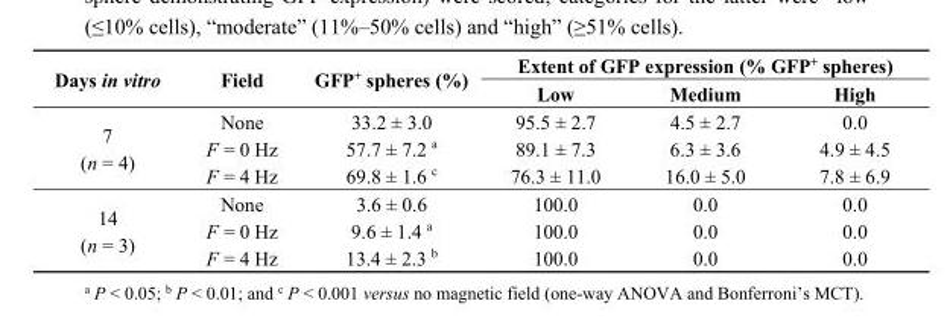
<table><thead><tr><td rowspan="2">Days in vitro</td><td rowspan="2">Field</td><td rowspan="2">GFP<sup>+</sup> spheres (%)</td><td colspan="3">Extent of GFP expression (% GFP<sup>+</sup> spheres)</td></tr><tr><td>Low</td><td>Medium</td><td>High</td></tr></thead><tbody><tr><td rowspan="3">7 (n = 4)</td><td>None</td><td>33.2 ± 3.0</td><td>95.5 ± 2.7</td><td>4.5 ± 2.7</td><td>0.0</td></tr><tr><td>F = 0 Hz</td><td>57.7 ± 7.2 <sup>a</sup></td><td>89.1 ± 7.3</td><td>6.3 ± 3.6</td><td>4.9 ± 4.5</td></tr><tr><td>F = 4 Hz</td><td>69.8 ± 1.6 <sup>c</sup></td><td>76.3 ± 11.0</td><td>16.0 ± 5.0</td><td>7.8 ± 6.9</td></tr><tr><td rowspan="3">14 (n = 3)</td><td>None</td><td>3.6 ± 0.6</td><td>100.0</td><td>0.0</td><td>0.0</td></tr><tr><td>F = 0 Hz</td><td>9.6 ± 1.4 <sup>a</sup></td><td>100.0</td><td>0.0</td><td>0.0</td></tr><tr><td>F = 4 Hz</td><td>13.4 ± 2.3 <sup>b</sup></td><td>100.0</td><td>0.0</td><td>0.0</td></tr></tbody></table>